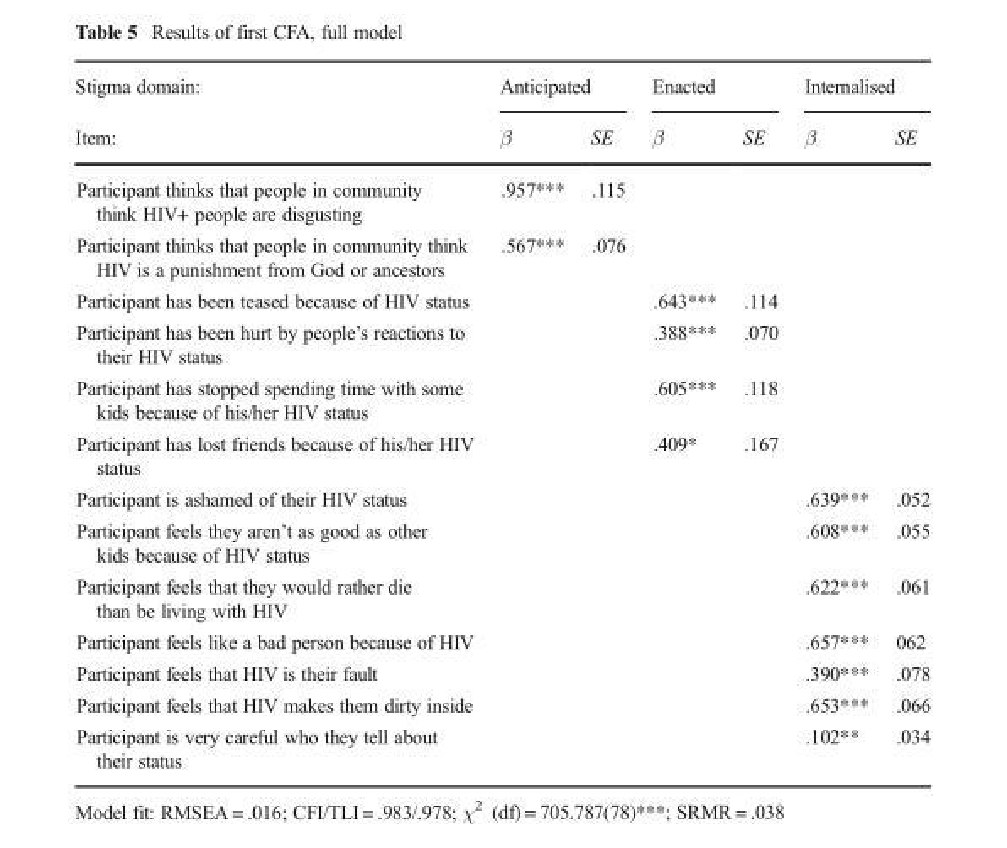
<table><thead><tr><td rowspan="2">Stigma domain: Item:</td><td colspan="2">Anticipated</td><td colspan="2">Enacted</td><td colspan="2">Internalised</td></tr><tr><td>β</td><td>SE</td><td>β</td><td>SE</td><td>β</td><td>SE</td></tr></thead><tbody><tr><td>Participant thinks that people in community think HIV+ people are disgusting</td><td>.957***</td><td>.115</td><td></td><td></td><td></td><td></td></tr><tr><td>Participant thinks that people in community think HIV is a punishment from God or ancestors</td><td>.567***</td><td>.076</td><td></td><td></td><td></td><td></td></tr><tr><td>Participant has been teased because of HIV status</td><td></td><td></td><td>.643***</td><td>.114</td><td></td><td></td></tr><tr><td>Participant has been hurt by people’s reactions to their HIV status</td><td></td><td></td><td>.388***</td><td>.070</td><td></td><td></td></tr><tr><td>Participant has stopped spending time with some kids because of his/her HIV status</td><td></td><td></td><td>.605***</td><td>.118</td><td></td><td></td></tr><tr><td>Participant has lost friends because of his/her HIV status</td><td></td><td></td><td>.409*</td><td>.167</td><td></td><td></td></tr><tr><td>Participant is ashamed of their HIV status</td><td></td><td></td><td></td><td></td><td>.639***</td><td>.052</td></tr><tr><td>Participant feels they aren’t as good as other kids because of HIV status</td><td></td><td></td><td></td><td></td><td>.608***</td><td>.055</td></tr><tr><td>Participant feels that they would rather die than be living with HIV</td><td></td><td></td><td></td><td></td><td>.622***</td><td>.061</td></tr><tr><td>Participant feels like a bad person because of HIV</td><td></td><td></td><td></td><td></td><td>.657***</td><td>062</td></tr><tr><td>Participant feels that HIV is their fault</td><td></td><td></td><td></td><td></td><td>.390***</td><td>.078</td></tr><tr><td>Participant feels that HIV makes them dirty inside</td><td></td><td></td><td></td><td></td><td>.653***</td><td>.066</td></tr><tr><td>Participant is very careful who they tell about their status</td><td></td><td></td><td></td><td></td><td>.102**</td><td>.034</td></tr></tbody></table>